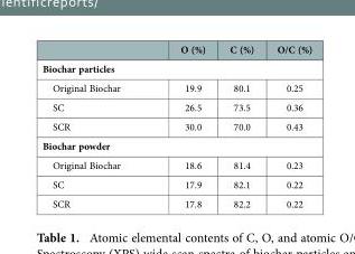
<table><thead><tr><td></td><td>O (%)</td><td>C (%)</td><td>O/C (%)</td></tr></thead><tbody><tr><td colspan="4">Biochar particles</td></tr><tr><td>Original Biochar</td><td>19.9</td><td>80.1</td><td>0.25</td></tr><tr><td>SC</td><td>26.5</td><td>73.5</td><td>0.36</td></tr><tr><td>SCR</td><td>30.0</td><td>70.0</td><td>0.43</td></tr><tr><td colspan="4">Biochar powder</td></tr><tr><td>Original Biochar</td><td>18.6</td><td>81.4</td><td>0.23</td></tr><tr><td>SC</td><td>17.9</td><td>82.1</td><td>0.22</td></tr><tr><td>SCR</td><td>17.8</td><td>82.2</td><td>0.22</td></tr></tbody></table>